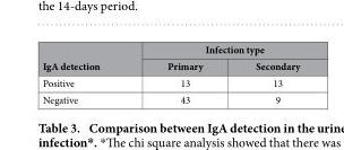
<table><thead><tr><td rowspan="2">IgA detection</td><td colspan="2">Infection type</td></tr><tr><td>Primary</td><td>Secondary</td></tr></thead><tbody><tr><td>Positive</td><td>13</td><td>13</td></tr><tr><td>Negative</td><td>43</td><td>9</td></tr></tbody></table>